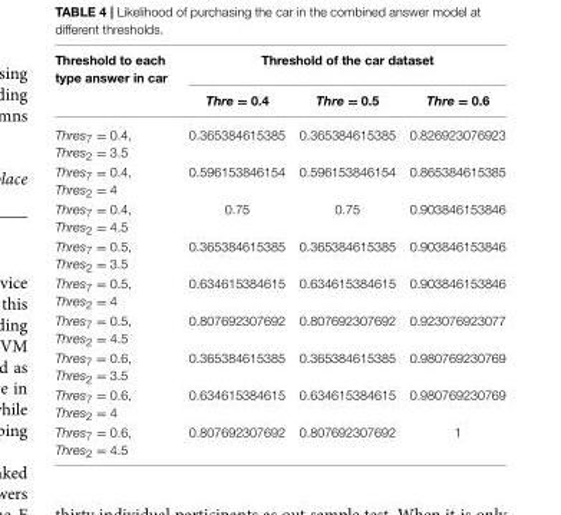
<table><thead><tr><td rowspan="2">Threshold to each type answer in car</td><td colspan="3">Threshold of the car dataset</td></tr><tr><td>Thre = 0.4</td><td>Thre = 0.5</td><td>Thre = 0.6</td></tr></thead><tbody><tr><td>Thres<sub>7</sub> = 0.4, Thres<sub>2</sub> = 3.5</td><td>0.365384615385</td><td>0.365384615385</td><td>0.826923076923</td></tr><tr><td>Thres<sub>7</sub> = 0.4, Thres<sub>2</sub> = 4</td><td>0.596153846154</td><td>0.596153846154</td><td>0.865384615385</td></tr><tr><td>Thres<sub>7</sub> = 0.4, Thres<sub>2</sub> = 4.5</td><td>0.75</td><td>0.75</td><td>0.903846153846</td></tr><tr><td>Thres<sub>7</sub> = 0.5, Thres<sub>2</sub> = 3.5</td><td>0.365384615385</td><td>0.365384615385</td><td>0.903846153846</td></tr><tr><td>Thres<sub>7</sub> = 0.5, Thres<sub>2</sub> = 4</td><td>0.634615384615</td><td>0.634615384615</td><td>0.903846153846</td></tr><tr><td>Thres<sub>7</sub> = 0.5, Thres<sub>2</sub> = 4.5</td><td>0.807692307692</td><td>0.807692307692</td><td>0.923076923077</td></tr><tr><td>Thres<sub>7</sub> = 0.6, Thres<sub>2</sub> = 3.5</td><td>0.365384615385</td><td>0.365384615385</td><td>0.980769230769</td></tr><tr><td>Thres<sub>7</sub> = 0.6, Thres<sub>2</sub> = 4</td><td>0.634615384615</td><td>0.634615384615</td><td>0.980769230769</td></tr><tr><td>Thres<sub>7</sub> = 0.6, Thres<sub>2</sub> = 4.5</td><td>0.807692307692</td><td>0.807692307692</td><td>1</td></tr></tbody></table>